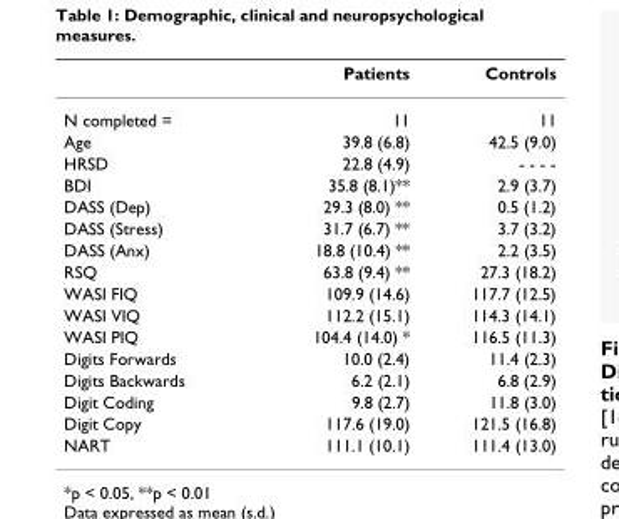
<table><thead><tr><td></td><td>Patients</td><td>Controls</td></tr></thead><tbody><tr><td>N completed =</td><td>11</td><td>11</td></tr><tr><td>Age</td><td>39.8 (6.8)</td><td>42.5 (9.0)</td></tr><tr><td>HRSD</td><td>22.8 (4.9)</td><td>- - - -</td></tr><tr><td>BDI</td><td>35.8 (8.1)**</td><td>2.9 (3.7)</td></tr><tr><td>DASS (Dep)</td><td>29.3 (8.0) **</td><td>0.5 (1.2)</td></tr><tr><td>DASS (Stress)</td><td>31.7 (6.7) **</td><td>3.7 (3.2)</td></tr><tr><td>DASS (Anx)</td><td>18.8 (10.4) **</td><td>2.2 (3.5)</td></tr><tr><td>RSQ</td><td>63.8 (9.4) **</td><td>27.3 (18.2)</td></tr><tr><td>WASI FIQ</td><td>109.9 (14.6)</td><td>117.7 (12.5)</td></tr><tr><td>WASI VIQ</td><td>112.2 (15.1)</td><td>114.3 (14.1)</td></tr><tr><td>WASI PIQ</td><td>104.4 (14.0) *</td><td>116.5 (11.3)</td></tr><tr><td>Digits Forwards</td><td>10.0 (2.4)</td><td>11.4 (2.3)</td></tr><tr><td>Digits Backwards</td><td>6.2 (2.1)</td><td>6.8 (2.9)</td></tr><tr><td>Digit Coding</td><td>9.8 (2.7)</td><td>11.8 (3.0)</td></tr><tr><td>Digit Copy</td><td>117.6 (19.0)</td><td>121.5 (16.8)</td></tr><tr><td>NART</td><td>111.1 (10.1)</td><td>111.4 (13.0)</td></tr></tbody></table>